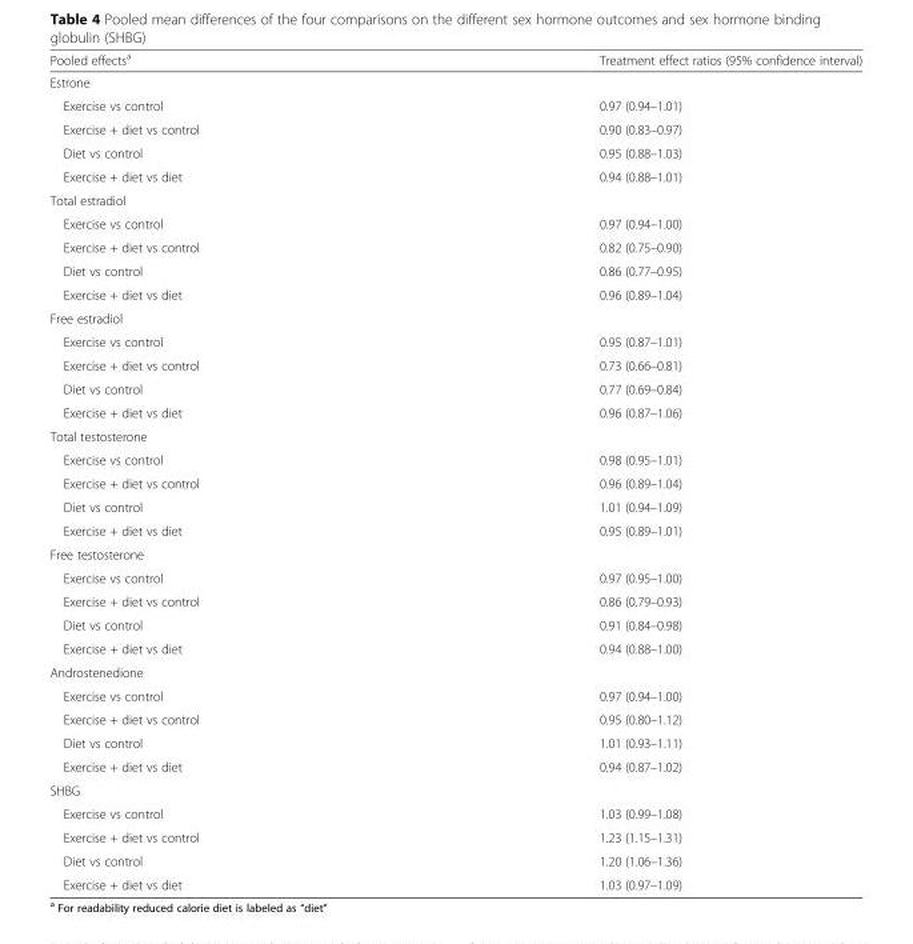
<table><thead><tr><td>Pooled effects<sup>a</sup></td><td>Treatment effect ratios (95% confidence interval)</td></tr></thead><tbody><tr><td colspan="2">Estrone</td></tr><tr><td>Exercise vs control</td><td>0.97 (0.94–1.01)</td></tr><tr><td>Exercise + diet vs control</td><td>0.90 (0.83–0.97)</td></tr><tr><td>Diet vs control</td><td>0.95 (0.88–1.03)</td></tr><tr><td>Exercise + diet vs diet</td><td>0.94 (0.88–1.01)</td></tr><tr><td colspan="2">Total estradiol</td></tr><tr><td>Exercise vs control</td><td>0.97 (0.94–1.00)</td></tr><tr><td>Exercise + diet vs control</td><td>0.82 (0.75–0.90)</td></tr><tr><td>Diet vs control</td><td>0.86 (0.77–0.95)</td></tr><tr><td>Exercise + diet vs diet</td><td>0.96 (0.89–1.04)</td></tr><tr><td colspan="2">Free estradiol</td></tr><tr><td>Exercise vs control</td><td>0.95 (0.87–1.01)</td></tr><tr><td>Exercise + diet vs control</td><td>0.73 (0.66–0.81)</td></tr><tr><td>Diet vs control</td><td>0.77 (0.69–0.84)</td></tr><tr><td>Exercise + diet vs diet</td><td>0.96 (0.87–1.06)</td></tr><tr><td colspan="2">Total testosterone</td></tr><tr><td>Exercise vs control</td><td>0.98 (0.95–1.01)</td></tr><tr><td>Exercise + diet vs control</td><td>0.96 (0.89–1.04)</td></tr><tr><td>Diet vs control</td><td>1.01 (0.94–1.09)</td></tr><tr><td>Exercise + diet vs diet</td><td>0.95 (0.89–1.01)</td></tr><tr><td colspan="2">Free testosterone</td></tr><tr><td>Exercise vs control</td><td>0.97 (0.95–1.00)</td></tr><tr><td>Exercise + diet vs control</td><td>0.86 (0.79–0.93)</td></tr><tr><td>Diet vs control</td><td>0.91 (0.84–0.98)</td></tr><tr><td>Exercise + diet vs diet</td><td>0.94 (0.88–1.00)</td></tr><tr><td colspan="2">Androstenedione</td></tr><tr><td>Exercise vs control</td><td>0.97 (0.94–1.00)</td></tr><tr><td>Exercise + diet vs control</td><td>0.95 (0.80–1.12)</td></tr><tr><td>Diet vs control</td><td>1.01 (0.93–1.11)</td></tr><tr><td>Exercise + diet vs diet</td><td>0.94 (0.87–1.02)</td></tr><tr><td colspan="2">SHBG</td></tr><tr><td>Exercise vs control</td><td>1.03 (0.99–1.08)</td></tr><tr><td>Exercise + diet vs control</td><td>1.23 (1.15–1.31)</td></tr><tr><td>Diet vs control</td><td>1.20 (1.06–1.36)</td></tr><tr><td>Exercise + diet vs diet</td><td>1.03 (0.97–1.09)</td></tr></tbody></table>